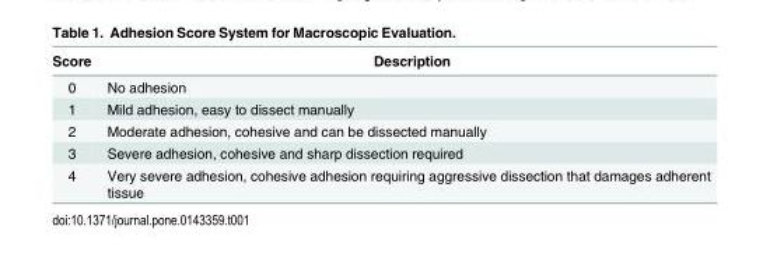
<table><thead><tr><td>Score</td><td>Description</td></tr></thead><tbody><tr><td>0</td><td>No adhesion</td></tr><tr><td>1</td><td>Mild adhesion, easy to dissect manually</td></tr><tr><td>2</td><td>Moderate adhesion, cohesive and can be dissected manually</td></tr><tr><td>3</td><td>Severe adhesion, cohesive and sharp dissection required</td></tr><tr><td>4</td><td>Very severe adhesion, cohesive adhesion requiring aggressive dissection that damages adherent tissue</td></tr></tbody></table>